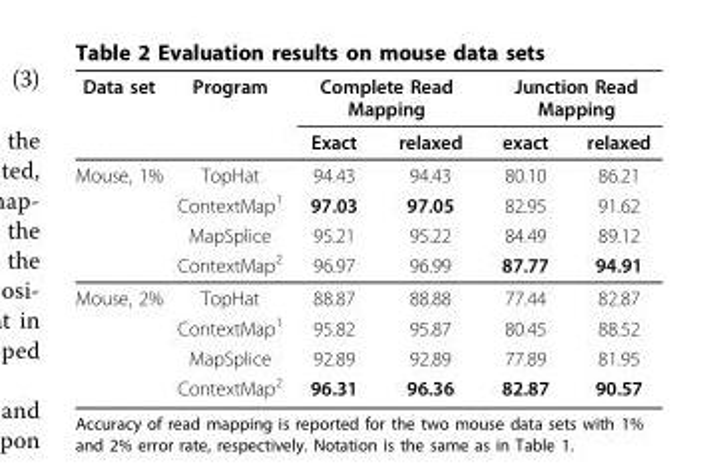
<table><thead><tr><td rowspan="2">Data set</td><td rowspan="2">Program</td><td colspan="2">Complete Read Mapping</td><td colspan="2">Junction Read Mapping</td></tr><tr><td>Exact</td><td>relaxed</td><td>exact</td><td>relaxed</td></tr></thead><tbody><tr><td rowspan="4">Mouse, 1%</td><td>TopHat</td><td>94.43</td><td>94.43</td><td>80.10</td><td>86.21</td></tr><tr><td>ContextMap<sup>1</sup></td><td>97.03</td><td>97.05</td><td>82.95</td><td>91.62</td></tr><tr><td>MapSplice</td><td>95.21</td><td>95.22</td><td>84.49</td><td>89.12</td></tr><tr><td>ContextMap<sup>2</sup></td><td>96.97</td><td>96.99</td><td>87.77</td><td>94.91</td></tr><tr><td rowspan="4">Mouse, 2%</td><td>TopHat</td><td>88.87</td><td>88.88</td><td>77.44</td><td>82.87</td></tr><tr><td>ContextMap<sup>1</sup></td><td>95.82</td><td>95.87</td><td>80.45</td><td>88.52</td></tr><tr><td>MapSplice</td><td>92.89</td><td>92.89</td><td>77.89</td><td>81.95</td></tr><tr><td>ContextMap<sup>2</sup></td><td>96.31</td><td>96.36</td><td>82.87</td><td>90.57</td></tr></tbody></table>